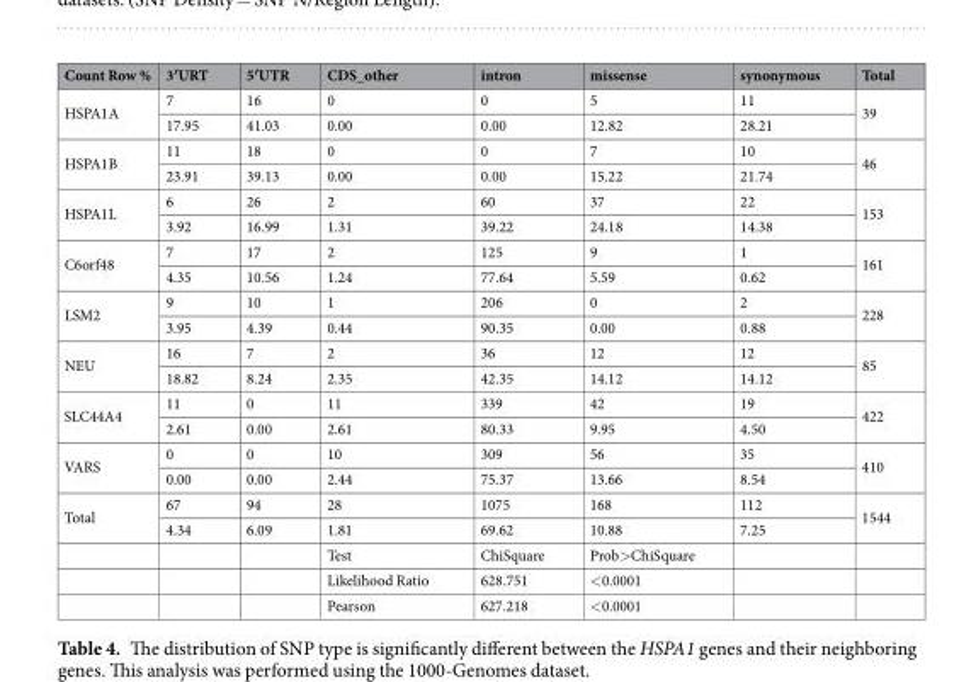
<table><thead><tr><td>Count Row %</td><td>3′URT</td><td>5′UTR</td><td>CDS_other</td><td>intron</td><td>missense</td><td>synonymous</td><td>Total</td></tr></thead><tbody><tr><td rowspan="2">HSPA1A</td><td>7</td><td>16</td><td>0</td><td>0</td><td>5</td><td>11</td><td rowspan="2">39</td></tr><tr><td>17.95</td><td>41.03</td><td>0.00</td><td>0.00</td><td>12.82</td><td>28.21</td></tr><tr><td rowspan="2">HSPA1B</td><td>11</td><td>18</td><td>0</td><td>0</td><td>7</td><td>10</td><td rowspan="2">46</td></tr><tr><td>23.91</td><td>39.13</td><td>0.00</td><td>0.00</td><td>15.22</td><td>21.74</td></tr><tr><td rowspan="2">HSPA1L</td><td>6</td><td>26</td><td>2</td><td>60</td><td>37</td><td>22</td><td rowspan="2">153</td></tr><tr><td>3.92</td><td>16.99</td><td>1.31</td><td>39.22</td><td>24.18</td><td>14.38</td></tr><tr><td rowspan="2">C6orf48</td><td>7</td><td>17</td><td>2</td><td>125</td><td>9</td><td>1</td><td rowspan="2">161</td></tr><tr><td>4.35</td><td>10.56</td><td>1.24</td><td>77.64</td><td>5.59</td><td>0.62</td></tr><tr><td rowspan="2">LSM2</td><td>9</td><td>10</td><td>1</td><td>206</td><td>0</td><td>2</td><td rowspan="2">228</td></tr><tr><td>3.95</td><td>4.39</td><td>0.44</td><td>90.35</td><td>0.00</td><td>0.88</td></tr><tr><td rowspan="2">NEU</td><td>16</td><td>7</td><td>2</td><td>36</td><td>12</td><td>12</td><td rowspan="2">85</td></tr><tr><td>18.82</td><td>8.24</td><td>2.35</td><td>42.35</td><td>14.12</td><td>14.12</td></tr><tr><td rowspan="2">SLC44A4</td><td>11</td><td>0</td><td>11</td><td>339</td><td>42</td><td>19</td><td rowspan="2">422</td></tr><tr><td>2.61</td><td>0.00</td><td>2.61</td><td>80.33</td><td>9.95</td><td>4.50</td></tr><tr><td rowspan="2">VARS</td><td>0</td><td>0</td><td>10</td><td>309</td><td>56</td><td>35</td><td rowspan="2">410</td></tr><tr><td>0.00</td><td>0.00</td><td>2.44</td><td>75.37</td><td>13.66</td><td>8.54</td></tr><tr><td rowspan="5">Total</td><td>67</td><td>94</td><td>28</td><td>1075</td><td>168</td><td>112</td><td rowspan="2">1544</td></tr><tr><td>4.34</td><td>6.09</td><td>1.81</td><td>69.62</td><td>10.88</td><td>7.25</td></tr><tr><td></td><td></td><td>Test</td><td>ChiSquare</td><td>Prob&gt;ChiSquare</td><td></td><td></td></tr><tr><td></td><td></td><td>Likelihood Ratio</td><td>628.751</td><td>&lt;0.0001</td><td></td><td></td></tr><tr><td></td><td></td><td>Pearson</td><td>627.218</td><td>&lt;0.0001</td><td></td><td></td></tr></tbody></table>